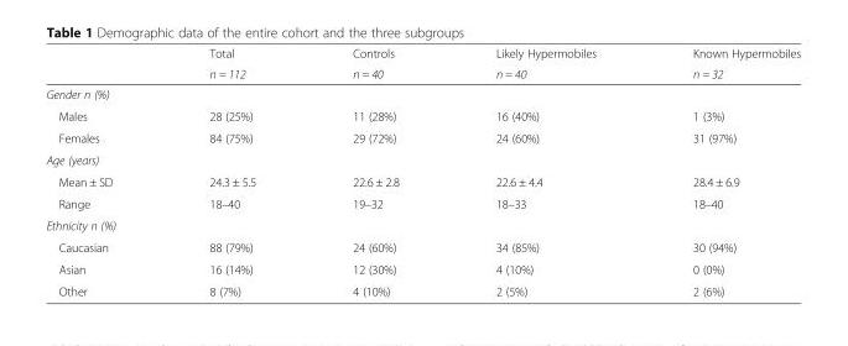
<table><thead><tr><td rowspan="2"></td><td rowspan="2">Total n = 112</td><td rowspan="2">Controls n = 40</td><td rowspan="2">Likely Hypermobiles n = 40</td><td rowspan="2">Known Hypermobiles n = 32</td></tr><tr></tr></thead><tbody><tr><td colspan="5">Gender n (%)</td></tr><tr><td>Males</td><td>28 (25%)</td><td>11 (28%)</td><td>16 (40%)</td><td>1 (3%)</td></tr><tr><td>Females</td><td>84 (75%)</td><td>29 (72%)</td><td>24 (60%)</td><td>31 (97%)</td></tr><tr><td colspan="5">Age (years)</td></tr><tr><td>Mean ± SD</td><td>24.3 ± 5.5</td><td>22.6 ± 2.8</td><td>22.6 ± 4.4</td><td>28.4 ± 6.9</td></tr><tr><td>Range</td><td>18–40</td><td>19–32</td><td>18–33</td><td>18–40</td></tr><tr><td colspan="5">Ethnicity n (%)</td></tr><tr><td>Caucasian</td><td>88 (79%)</td><td>24 (60%)</td><td>34 (85%)</td><td>30 (94%)</td></tr><tr><td>Asian</td><td>16 (14%)</td><td>12 (30%)</td><td>4 (10%)</td><td>0 (0%)</td></tr><tr><td>Other</td><td>8 (7%)</td><td>4 (10%)</td><td>2 (5%)</td><td>2 (6%)</td></tr></tbody></table>